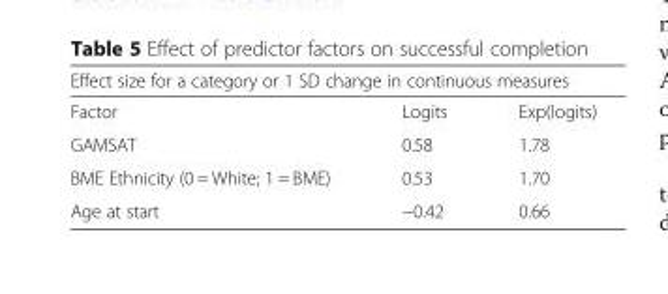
<table><thead><tr><td colspan="3">Effect size for a category or 1 SD change in continuous measures</td></tr><tr><td>Factor</td><td>Logits</td><td>Exp(logits)</td></tr></thead><tbody><tr><td>GAMSAT</td><td>0.58</td><td>1.78</td></tr><tr><td>BME Ethnicity (0 = White; 1 = BME)</td><td>0.53</td><td>1.70</td></tr><tr><td>Age at start</td><td>−0.42</td><td>0.66</td></tr></tbody></table>